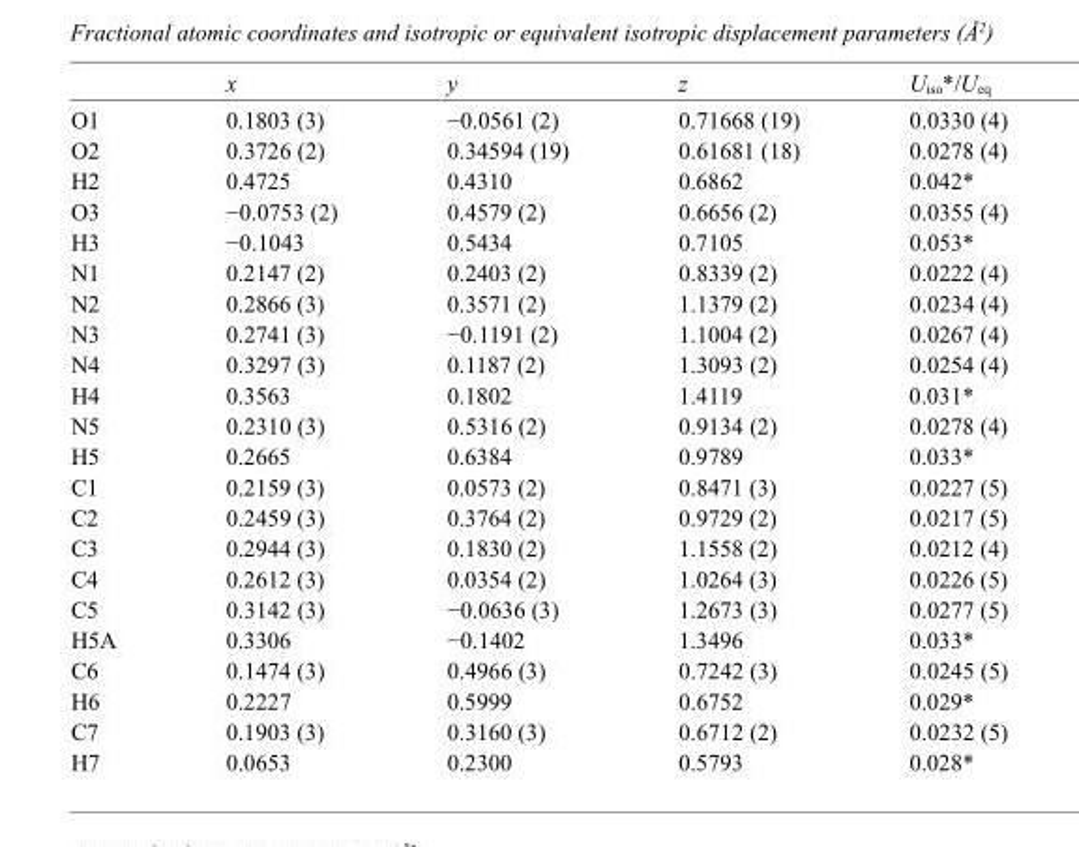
<table><thead><tr><td></td><td>x</td><td>y</td><td>z</td><td>U<sub>iso</sub>*/U<sub>eq</sub></td></tr></thead><tbody><tr><td>O1</td><td>0.1803 (3)</td><td>−0.0561 (2)</td><td>0.71668 (19)</td><td>0.0330 (4)</td></tr><tr><td>O2</td><td>0.3726 (2)</td><td>0.34594 (19)</td><td>0.61681 (18)</td><td>0.0278 (4)</td></tr><tr><td>H2</td><td>0.4725</td><td>0.4310</td><td>0.6862</td><td>0.042*</td></tr><tr><td>O3</td><td>−0.0753 (2)</td><td>0.4579 (2)</td><td>0.6656 (2)</td><td>0.0355 (4)</td></tr><tr><td>H3</td><td>−0.1043</td><td>0.5434</td><td>0.7105</td><td>0.053*</td></tr><tr><td>N1</td><td>0.2147 (2)</td><td>0.2403 (2)</td><td>0.8339 (2)</td><td>0.0222 (4)</td></tr><tr><td>N2</td><td>0.2866 (3)</td><td>0.3571 (2)</td><td>1.1379 (2)</td><td>0.0234 (4)</td></tr><tr><td>N3</td><td>0.2741 (3)</td><td>−0.1191 (2)</td><td>1.1004 (2)</td><td>0.0267 (4)</td></tr><tr><td>N4</td><td>0.3297 (3)</td><td>0.1187 (2)</td><td>1.3093 (2)</td><td>0.0254 (4)</td></tr><tr><td>H4</td><td>0.3563</td><td>0.1802</td><td>1.4119</td><td>0.031*</td></tr><tr><td>N5</td><td>0.2310 (3)</td><td>0.5316 (2)</td><td>0.9134 (2)</td><td>0.0278 (4)</td></tr><tr><td>H5</td><td>0.2665</td><td>0.6384</td><td>0.9789</td><td>0.033*</td></tr><tr><td>C1</td><td>0.2159 (3)</td><td>0.0573 (2)</td><td>0.8471 (3)</td><td>0.0227 (5)</td></tr><tr><td>C2</td><td>0.2459 (3)</td><td>0.3764 (2)</td><td>0.9729 (2)</td><td>0.0217 (5)</td></tr><tr><td>C3</td><td>0.2944 (3)</td><td>0.1830 (2)</td><td>1.1558 (2)</td><td>0.0212 (4)</td></tr><tr><td>C4</td><td>0.2612 (3)</td><td>0.0354 (2)</td><td>1.0264 (3)</td><td>0.0226 (5)</td></tr><tr><td>C5</td><td>0.3142 (3)</td><td>−0.0636 (3)</td><td>1.2673 (3)</td><td>0.0277 (5)</td></tr><tr><td>H5A</td><td>0.3306</td><td>−0.1402</td><td>1.3496</td><td>0.033*</td></tr><tr><td>C6</td><td>0.1474 (3)</td><td>0.4966 (3)</td><td>0.7242 (3)</td><td>0.0245 (5)</td></tr><tr><td>H6</td><td>0.2227</td><td>0.5999</td><td>0.6752</td><td>0.029*</td></tr><tr><td>C7</td><td>0.1903 (3)</td><td>0.3160 (3)</td><td>0.6712 (2)</td><td>0.0232 (5)</td></tr><tr><td>H7</td><td>0.0653</td><td>0.2300</td><td>0.5793</td><td>0.028*</td></tr></tbody></table>